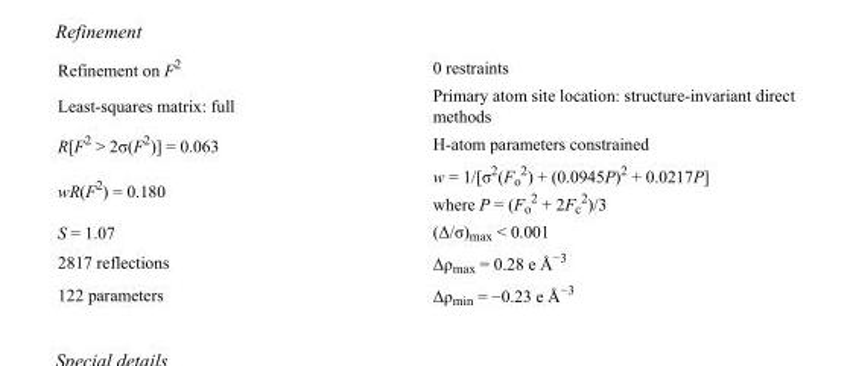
<table><tbody><tr><td>Refinement on F<sup>2</sup></td><td>0 restraints</td></tr><tr><td>Least-squares matrix: full</td><td>Primary atom site location: structure-invariant direct methods</td></tr><tr><td>R[F<sup>2</sup> &gt; 2σ(F<sup>2</sup>)] = 0.063</td><td>H-atom parameters constrained</td></tr><tr><td>wR(F<sup>2</sup>) = 0.180</td><td>w = 1/[σ<sup>2</sup>(F<sub>o</sub> <sup>2</sup>) + (0.0945P)<sup>2</sup> + 0.0217P] where P = (F<sub>o</sub> <sup>2</sup> + 2F<sub>c</sub> <sup>2</sup>)/3</td></tr><tr><td>S = 1.07</td><td>(Δ/σ)<sub>max</sub> &lt; 0.001</td></tr><tr><td>2817 reflections</td><td>Δρ<sub>max</sub> = 0.28 e Å<sup>−3</sup></td></tr><tr><td>122 parameters</td><td>Δρmin = −0.23 e Å−3</td></tr></tbody></table>